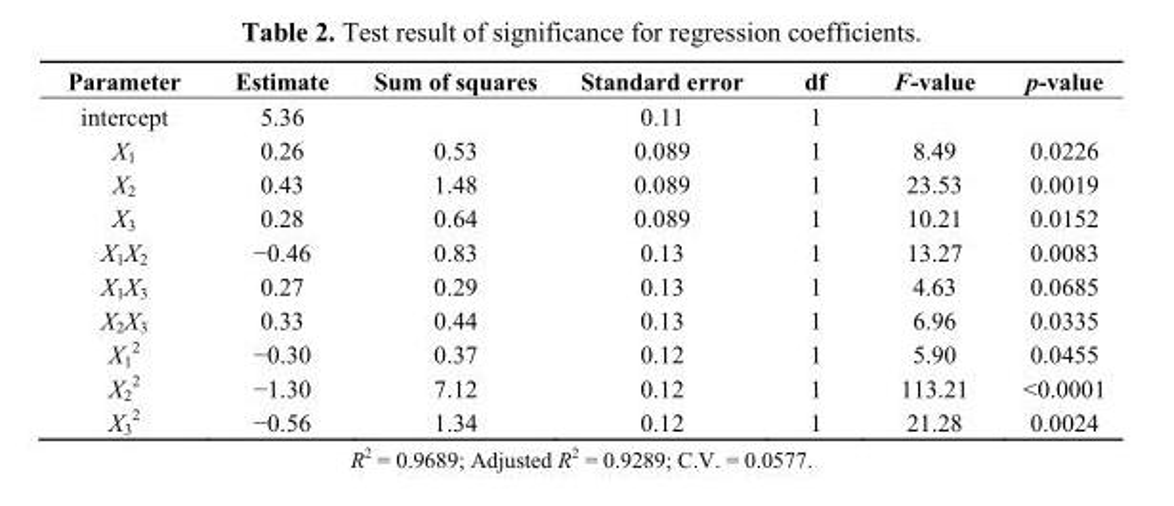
<table><thead><tr><td>Parameter</td><td>Estimate</td><td>Sum of squares</td><td>Standard error</td><td>df</td><td>F-value</td><td>p-value</td></tr></thead><tbody><tr><td>intercept</td><td>5.36</td><td></td><td>0.11</td><td>1</td><td></td><td></td></tr><tr><td>X<sub>1</sub></td><td>0.26</td><td>0.53</td><td>0.089</td><td>1</td><td>8.49</td><td>0.0226</td></tr><tr><td>X<sub>2</sub></td><td>0.43</td><td>1.48</td><td>0.089</td><td>1</td><td>23.53</td><td>0.0019</td></tr><tr><td>X<sub>3</sub></td><td>0.28</td><td>0.64</td><td>0.089</td><td>1</td><td>10.21</td><td>0.0152</td></tr><tr><td>X<sub>1</sub>X<sub>2</sub></td><td>−0.46</td><td>0.83</td><td>0.13</td><td>1</td><td>13.27</td><td>0.0083</td></tr><tr><td>X<sub>1</sub>X<sub>3</sub></td><td>0.27</td><td>0.29</td><td>0.13</td><td>1</td><td>4.63</td><td>0.0685</td></tr><tr><td>X<sub>2</sub>X<sub>3</sub></td><td>0.33</td><td>0.44</td><td>0.13</td><td>1</td><td>6.96</td><td>0.0335</td></tr><tr><td>X<sub>1</sub> <sup>2</sup></td><td>−0.30</td><td>0.37</td><td>0.12</td><td>1</td><td>5.90</td><td>0.0455</td></tr><tr><td>X<sub>2</sub> <sup>2</sup></td><td>−1.30</td><td>7.12</td><td>0.12</td><td>1</td><td>113.21</td><td>&lt;0.0001</td></tr><tr><td>X<sub>3</sub> <sup>2</sup></td><td>−0.56</td><td>1.34</td><td>0.12</td><td>1</td><td>21.28</td><td>0.0024</td></tr></tbody></table>